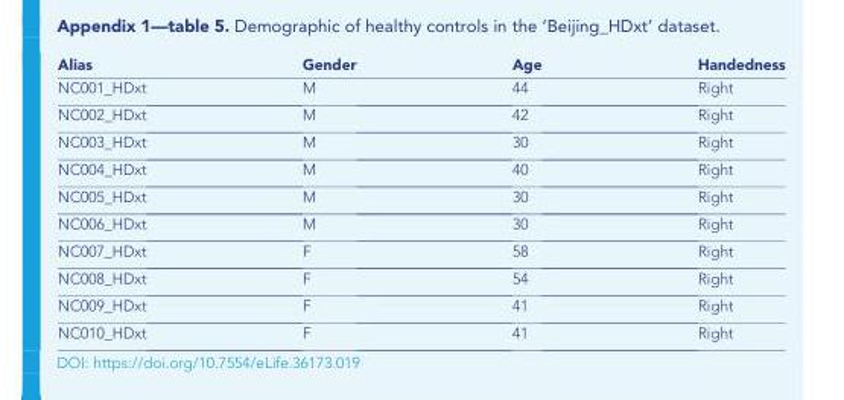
<table><thead><tr><td>Alias</td><td>Gender</td><td>Age</td><td>Handedness</td></tr></thead><tbody><tr><td>NC001_HDxt</td><td>M</td><td>44</td><td>Right</td></tr><tr><td>NC002_HDxt</td><td>M</td><td>42</td><td>Right</td></tr><tr><td>NC003_HDxt</td><td>M</td><td>30</td><td>Right</td></tr><tr><td>NC004_HDxt</td><td>M</td><td>40</td><td>Right</td></tr><tr><td>NC005_HDxt</td><td>M</td><td>30</td><td>Right</td></tr><tr><td>NC006_HDxt</td><td>M</td><td>30</td><td>Right</td></tr><tr><td>NC007_HDxt</td><td>F</td><td>58</td><td>Right</td></tr><tr><td>NC008_HDxt</td><td>F</td><td>54</td><td>Right</td></tr><tr><td>NC009_HDxt</td><td>F</td><td>41</td><td>Right</td></tr><tr><td>NC010_HDxt</td><td>F</td><td>41</td><td>Right</td></tr></tbody></table>